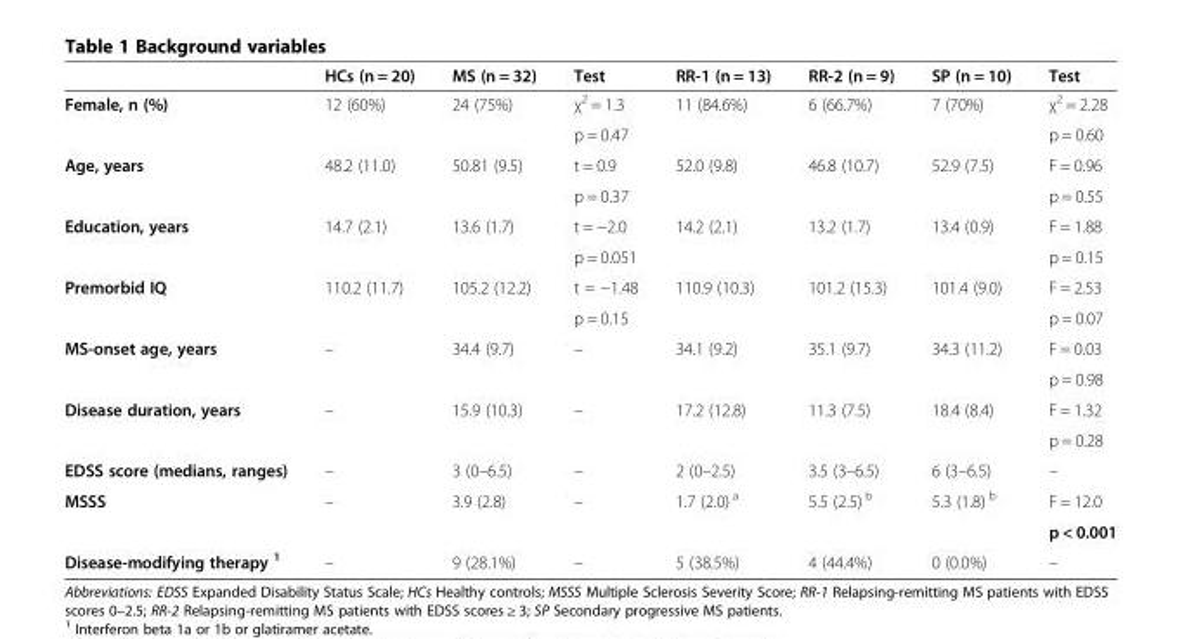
<table><thead><tr><td></td><td>HCs (n = 20)</td><td>MS (n = 32)</td><td>Test</td><td>RR-1 (n = 13)</td><td>RR-2 (n = 9)</td><td>SP (n = 10)</td><td>Test</td></tr></thead><tbody><tr><td rowspan="2">Female, n (%)</td><td rowspan="2">12 (60%)</td><td rowspan="2">24 (75%)</td><td>χ<sup>2</sup> = 1.3</td><td rowspan="2">11 (84.6%)</td><td rowspan="2">6 (66.7%)</td><td rowspan="2">7 (70%)</td><td>χ<sup>2</sup> = 2.28</td></tr><tr><td>p = 0.47</td><td>p = 0.60</td></tr><tr><td rowspan="2">Age, years</td><td rowspan="2">48.2 (11.0)</td><td rowspan="2">50.81 (9.5)</td><td>t = 0.9</td><td rowspan="2">52.0 (9.8)</td><td rowspan="2">46.8 (10.7)</td><td rowspan="2">52.9 (7.5)</td><td>F = 0.96</td></tr><tr><td>p = 0.37</td><td>p = 0.55</td></tr><tr><td rowspan="2">Education, years</td><td rowspan="2">14.7 (2.1)</td><td rowspan="2">13.6 (1.7)</td><td>t = −2.0</td><td rowspan="2">14.2 (2.1)</td><td rowspan="2">13.2 (1.7)</td><td rowspan="2">13.4 (0.9)</td><td>F = 1.88</td></tr><tr><td>p = 0.051</td><td>p = 0.15</td></tr><tr><td rowspan="2">Premorbid IQ</td><td rowspan="2">110.2 (11.7)</td><td rowspan="2">105.2 (12.2)</td><td>t = −1.48</td><td rowspan="2">110.9 (10.3)</td><td rowspan="2">101.2 (15.3)</td><td rowspan="2">101.4 (9.0)</td><td>F = 2.53</td></tr><tr><td>p = 0.15</td><td>p = 0.07</td></tr><tr><td rowspan="2">MS-onset age, years</td><td rowspan="2">–</td><td rowspan="2">34.4 (9.7)</td><td rowspan="2">–</td><td rowspan="2">34.1 (9.2)</td><td rowspan="2">35.1 (9.7)</td><td rowspan="2">34.3 (11.2)</td><td>F = 0.03</td></tr><tr><td>p = 0.98</td></tr><tr><td rowspan="2">Disease duration, years</td><td rowspan="2">–</td><td rowspan="2">15.9 (10.3)</td><td rowspan="2">–</td><td rowspan="2">17.2 (12.8)</td><td rowspan="2">11.3 (7.5)</td><td rowspan="2">18.4 (8.4)</td><td>F = 1.32</td></tr><tr><td>p = 0.28</td></tr><tr><td>EDSS score (medians, ranges)</td><td>–</td><td>3 (0–6.5)</td><td>–</td><td>2 (0–2.5)</td><td>3.5 (3–6.5)</td><td>6 (3–6.5)</td><td>–</td></tr><tr><td rowspan="2">MSSS</td><td rowspan="2">–</td><td rowspan="2">3.9 (2.8)</td><td rowspan="2">–</td><td rowspan="2">1.7 (2.0) <sup>a</sup></td><td rowspan="2">5.5 (2.5) <sup>b</sup></td><td rowspan="2">5.3 (1.8) <sup>b</sup></td><td>F = 12.0</td></tr><tr><td>p &lt; 0.001</td></tr><tr><td>Disease-modifying therapy <sup>1</sup></td><td>–</td><td>9 (28.1%)</td><td>–</td><td>5 (38.5%)</td><td>4 (44.4%)</td><td>0 (0.0%)</td><td>–</td></tr></tbody></table>